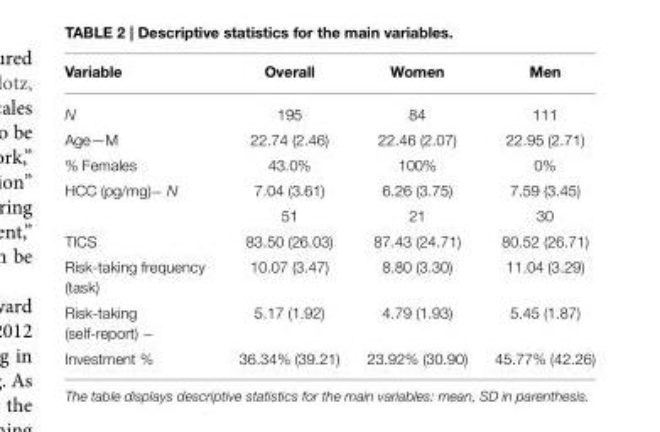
<table><thead><tr><td>Variable</td><td>Overall</td><td>Women</td><td>Men</td></tr></thead><tbody><tr><td>N</td><td>195</td><td>84</td><td>111</td></tr><tr><td>Age—M</td><td>22.74 (2.46)</td><td>22.46 (2.07)</td><td>22.95 (2.71)</td></tr><tr><td>% Females</td><td>43.0%</td><td>100%</td><td>0%</td></tr><tr><td rowspan="2">HCC (pg/mg)− N</td><td>7.04 (3.61)</td><td>6.26 (3.75)</td><td>7.59 (3.45)</td></tr><tr><td>51</td><td>21</td><td>30</td></tr><tr><td>TICS</td><td>83.50 (26.03)</td><td>87.43 (24.71)</td><td>80.52 (26.71)</td></tr><tr><td>Risk-taking frequency (task)</td><td>10.07 (3.47)</td><td>8.80 (3.30)</td><td>11.04 (3.29)</td></tr><tr><td>Risk-taking (self-report) −</td><td>5.17 (1.92)</td><td>4.79 (1.93)</td><td>5.45 (1.87)</td></tr><tr><td>Investment %</td><td>36.34% (39.21)</td><td>23.92% (30.90)</td><td>45.77% (42.26)</td></tr></tbody></table>